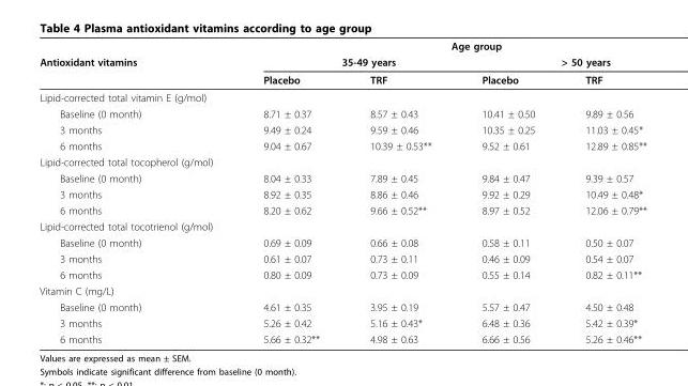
<table><thead><tr><td rowspan="3">Antioxidant vitamins</td><td colspan="4">Age group</td></tr><tr><td colspan="2">35-49 years</td><td colspan="2">&gt; 50 years</td></tr><tr><td>Placebo</td><td>TRF</td><td>Placebo</td><td>TRF</td></tr></thead><tbody><tr><td colspan="5">Lipid-corrected total vitamin E (g/mol)</td></tr><tr><td>Baseline (0 month)</td><td>8.71 ± 0.37</td><td>8.57 ± 0.43</td><td>10.41 ± 0.50</td><td>9.89 ± 0.56</td></tr><tr><td>3 months</td><td>9.49 ± 0.24</td><td>9.59 ± 0.46</td><td>10.35 ± 0.25</td><td>11.03 ± 0.45*</td></tr><tr><td>6 months</td><td>9.04 ± 0.67</td><td>10.39 ± 0.53**</td><td>9.52 ± 0.61</td><td>12.89 ± 0.85**</td></tr><tr><td colspan="5">Lipid-corrected total tocopherol (g/mol)</td></tr><tr><td>Baseline (0 month)</td><td>8.04 ± 0.33</td><td>7.89 ± 0.45</td><td>9.84 ± 0.47</td><td>9.39 ± 0.57</td></tr><tr><td>3 months</td><td>8.92 ± 0.35</td><td>8.86 ± 0.46</td><td>9.92 ± 0.29</td><td>10.49 ± 0.48*</td></tr><tr><td>6 months</td><td>8.20 ± 0.62</td><td>9.66 ± 0.52**</td><td>8.97 ± 0.52</td><td>12.06 ± 0.79**</td></tr><tr><td colspan="5">Lipid-corrected total tocotrienol (g/mol)</td></tr><tr><td>Baseline (0 month)</td><td>0.69 ± 0.09</td><td>0.66 ± 0.08</td><td>0.58 ± 0.11</td><td>0.50 ± 0.07</td></tr><tr><td>3 months</td><td>0.61 ± 0.07</td><td>0.73 ± 0.11</td><td>0.46 ± 0.09</td><td>0.54 ± 0.07</td></tr><tr><td>6 months</td><td>0.80 ± 0.09</td><td>0.73 ± 0.09</td><td>0.55 ± 0.14</td><td>0.82 ± 0.11**</td></tr><tr><td colspan="5">Vitamin C (mg/L)</td></tr><tr><td>Baseline (0 month)</td><td>4.61 ± 0.35</td><td>3.95 ± 0.19</td><td>5.57 ± 0.47</td><td>4.50 ± 0.48</td></tr><tr><td>3 months</td><td>5.26 ± 0.42</td><td>5.16 ± 0.43*</td><td>6.48 ± 0.36</td><td>5.42 ± 0.39*</td></tr><tr><td>6 months</td><td>5.66 ± 0.32**</td><td>4.98 ± 0.63</td><td>6.66 ± 0.56</td><td>5.26 ± 0.46**</td></tr></tbody></table>